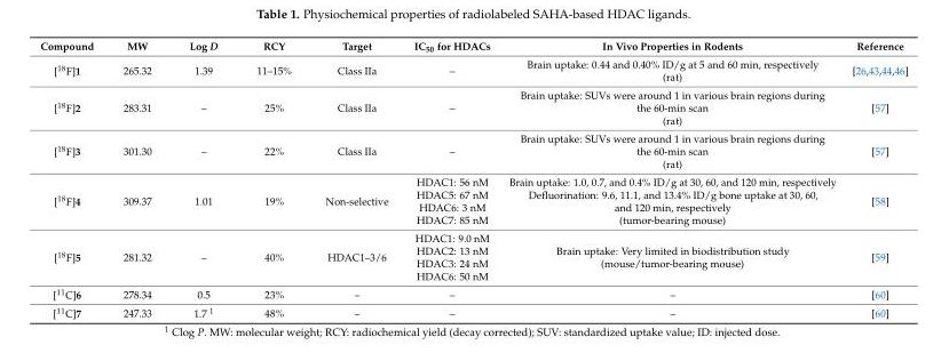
<table><thead><tr><td>Compound</td><td>MW</td><td>Log D</td><td>RCY</td><td>Target</td><td>IC50 for HDACs</td><td>In Vivo Properties in Rodents</td><td>Reference</td></tr></thead><tbody><tr><td>[18F]1</td><td>265.32</td><td>1.39</td><td>11–15%</td><td>Class IIa</td><td>–</td><td>Brain uptake: 0.44 and 0.40% ID/g at 5 and 60 min, respectively (rat)</td><td>[26,43,44,46]</td></tr><tr><td>[18F]2</td><td>283.31</td><td>–</td><td>25%</td><td>Class IIa</td><td>–</td><td>Brain uptake: SUVs were around 1 in various brain regions during the 60-min scan (rat)</td><td>[57]</td></tr><tr><td>[18F]3</td><td>301.30</td><td>–</td><td>22%</td><td>Class IIa</td><td>–</td><td>Brain uptake: SUVs were around 1 in various brain regions during the 60-min scan (rat)</td><td>[57]</td></tr><tr><td>[18F]4</td><td>309.37</td><td>1.01</td><td>19%</td><td>Non-selective</td><td>HDAC1: 56 nM HDAC5: 67 nM HDAC6: 3 nM HDAC7: 85 nM</td><td>Brain uptake: 1.0, 0.7, and 0.4% ID/g at 30, 60, and 120 min, respectively Defluorination: 9.6, 11.1, and 13.4% ID/g bone uptake at 30, 60, and 120 min, respectively (tumor-bearing mouse)</td><td>[58]</td></tr><tr><td>[18F]5</td><td>281.32</td><td>–</td><td>40%</td><td>HDAC1–3/6</td><td>HDAC1: 9.0 nM HDAC2: 13 nM HDAC3: 24 nM HDAC6: 50 nM</td><td>Brain uptake: Very limited in biodistribution study (mouse/tumor-bearing mouse)</td><td>[59]</td></tr><tr><td>[11C]6</td><td>278.34</td><td>0.5</td><td>23%</td><td>–</td><td>–</td><td>–</td><td>[60]</td></tr><tr><td>[11C]7</td><td>247.33</td><td>1.7 1</td><td>48%</td><td>–</td><td>–</td><td>–</td><td>[60]</td></tr></tbody></table>